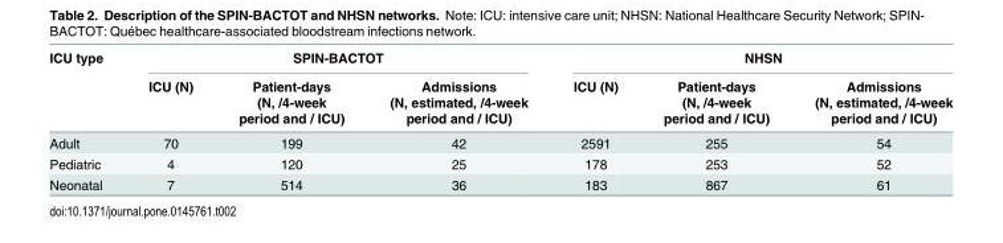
<table><thead><tr><td rowspan="2">ICU type</td><td colspan="3">SPIN-BACTOT</td><td colspan="3">NHSN</td></tr><tr><td>ICU (N)</td><td>Patient-days (N, /4-week period and / ICU)</td><td>Admissions (N, estimated, /4-week period and / ICU)</td><td>ICU (N)</td><td>Patient-days (N, /4-week period and / ICU)</td><td>Admissions (N, estimated, /4-week period and / ICU)</td></tr></thead><tbody><tr><td>Adult</td><td>70</td><td>199</td><td>42</td><td>2591</td><td>255</td><td>54</td></tr><tr><td>Pediatric</td><td>4</td><td>120</td><td>25</td><td>178</td><td>253</td><td>52</td></tr><tr><td>Neonatal</td><td>7</td><td>514</td><td>36</td><td>183</td><td>867</td><td>61</td></tr></tbody></table>